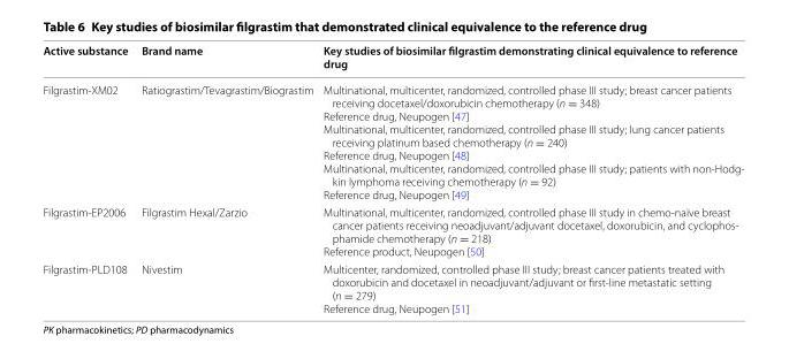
<table><thead><tr><td>Active substance</td><td>Brand name</td><td>Key studies of biosimilar filgrastim demonstrating clinical equivalence to reference drug</td></tr></thead><tbody><tr><td>Filgrastim-XM02</td><td>Ratiograstim/Tevagrastim/Biograstim</td><td>Multinational, multicenter, randomized, controlled phase III study; breast cancer patients receiving docetaxel/doxorubicin chemotherapy (n = 348) Reference drug, Neupogen [47] Multinational, multicenter, randomized, controlled phase III study; lung cancer patients receiving platinum based chemotherapy (n = 240) Reference drug, Neupogen [48] Multinational, multicenter, randomized, controlled phase III study; patients with non-Hodg- kin lymphoma receiving chemotherapy (n = 92) Reference drug, Neupogen [49]</td></tr><tr><td>Filgrastim-EP2006</td><td>Filgrastim Hexal/Zarzio</td><td>Multinational, multicenter, randomized, controlled phase III study in chemo-naïve breast cancer patients receiving neoadjuvant/adjuvant docetaxel, doxorubicin, and cyclophos- phamide chemotherapy (n = 218) Reference product, Neupogen [50]</td></tr><tr><td>Filgrastim-PLD108</td><td>Nivestim</td><td>Multicenter, randomized, controlled phase III study; breast cancer patients treated with doxorubicin and docetaxel in neoadjuvant/adjuvant or first-line metastatic setting (n = 279) Reference drug, Neupogen [51]</td></tr></tbody></table>